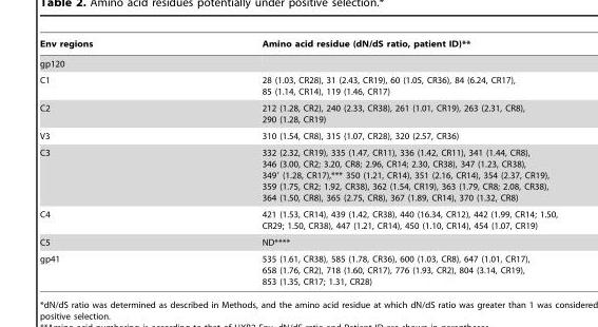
<table><thead><tr><td>Env regions</td><td>Amino acid residue (dN/dS ratio, patient ID)**</td></tr></thead><tbody><tr><td colspan="2">gp120</td></tr><tr><td>C1</td><td>28 (1.03, CR28), 31 (2.43, CR19), 60 (1.05, CR36), 84 (6.24, CR17), 85 (1.14, CR14), 119 (1.46, CR17)</td></tr><tr><td>C2</td><td>212 (1.28, CR2), 240 (2.33, CR38), 261 (1.01, CR19), 263 (2.31, CR8), 290 (1.28, CR19)</td></tr><tr><td>V3</td><td>310 (1.54, CR8), 315 (1.07, CR28), 320 (2.57, CR36)</td></tr><tr><td>C3</td><td>332 (2.32, CR19), 335 (1.47, CR11), 336 (1.42, CR11), 341 (1.44, CR8), 346 (3.00, CR2; 3.20, CR8; 2.96, CR14; 2.30, CR38), 347 (1.23, CR38), 349′ (1.28, CR17),*** 350 (1.21, CR14), 351 (2.16, CR14), 354 (2.37, CR19), 359 (1.75, CR2; 1.92, CR38), 362 (1.54, CR19), 363 (1.79, CR8; 2.08, CR38), 364 (1.50, CR8), 365 (2.75, CR8), 367 (1.89, CR14), 370 (1.32, CR8)</td></tr><tr><td>C4</td><td>421 (1.53, CR14), 439 (1.42, CR38), 440 (16.34, CR12), 442 (1.99, CR14; 1.50, CR29; 1.50, CR38), 447 (1.21, CR14), 450 (1.10, CR14), 454 (1.07, CR19)</td></tr><tr><td>C5</td><td>ND****</td></tr><tr><td>gp41</td><td>535 (1.61, CR38), 585 (1.78, CR36), 600 (1.03, CR8), 647 (1.01, CR17), 658 (1.76, CR2), 718 (1.60, CR17), 776 (1.93, CR2), 804 (3.14, CR19), 853 (1.35, CR17; 1.31, CR28)</td></tr></tbody></table>